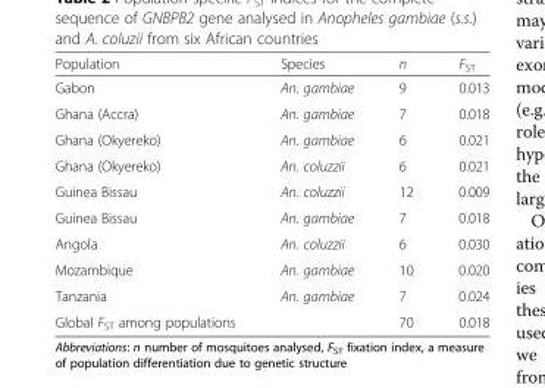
<table><thead><tr><td>Population</td><td>Species</td><td>n</td><td>F<sub>ST</sub></td></tr></thead><tbody><tr><td>Gabon</td><td>An. gambiae</td><td>9</td><td>0.013</td></tr><tr><td>Ghana (Accra)</td><td>An. gambiae</td><td>7</td><td>0.018</td></tr><tr><td>Ghana (Okyereko)</td><td>An. gambiae</td><td>6</td><td>0.021</td></tr><tr><td>Ghana (Okyereko)</td><td>An. coluzzii</td><td>6</td><td>0.021</td></tr><tr><td>Guinea Bissau</td><td>An. coluzzii</td><td>12</td><td>0.009</td></tr><tr><td>Guinea Bissau</td><td>An. gambiae</td><td>7</td><td>0.018</td></tr><tr><td>Angola</td><td>An. coluzzii</td><td>6</td><td>0.030</td></tr><tr><td>Mozambique</td><td>An. gambiae</td><td>10</td><td>0.020</td></tr><tr><td>Tanzania</td><td>An. gambiae</td><td>7</td><td>0.024</td></tr><tr><td>Global F<sub>ST</sub> among populations</td><td></td><td>70</td><td>0.018</td></tr></tbody></table>